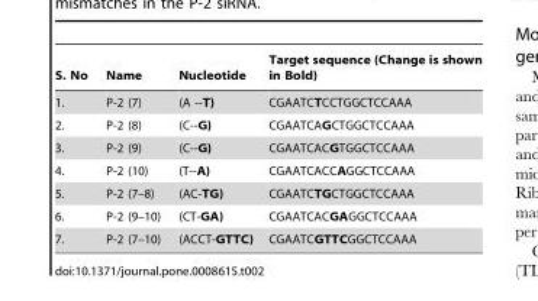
<table><thead><tr><td>S. No</td><td>Name</td><td>Nucleotide</td><td>Target sequence (Change is shown in Bold)</td></tr></thead><tbody><tr><td>1.</td><td>P-2 (7)</td><td>(A --T)</td><td>CGAATCTCCTGGCTCCAAA</td></tr><tr><td>2.</td><td>P-2 (8)</td><td>(C--G)</td><td>CGAATCAGCTGGCTCCAAA</td></tr><tr><td>3.</td><td>P-2 (9)</td><td>(C--G)</td><td>CGAATCACGTGGCTCCAAA</td></tr><tr><td>4.</td><td>P-2 (10)</td><td>(T--A)</td><td>CGAATCACCAGGCTCCAAA</td></tr><tr><td>5.</td><td>P-2 (7–8)</td><td>(AC-TG)</td><td>CGAATCTGCTGGCTCCAAA</td></tr><tr><td>6.</td><td>P-2 (9–10)</td><td>(CT-GA)</td><td>CGAATCACGAGGCTCCAAA</td></tr><tr><td>7.</td><td>P-2 (7–10)</td><td>(ACCT-GTTC)</td><td>CGAATCGTTCGGCTCCAAA</td></tr></tbody></table>